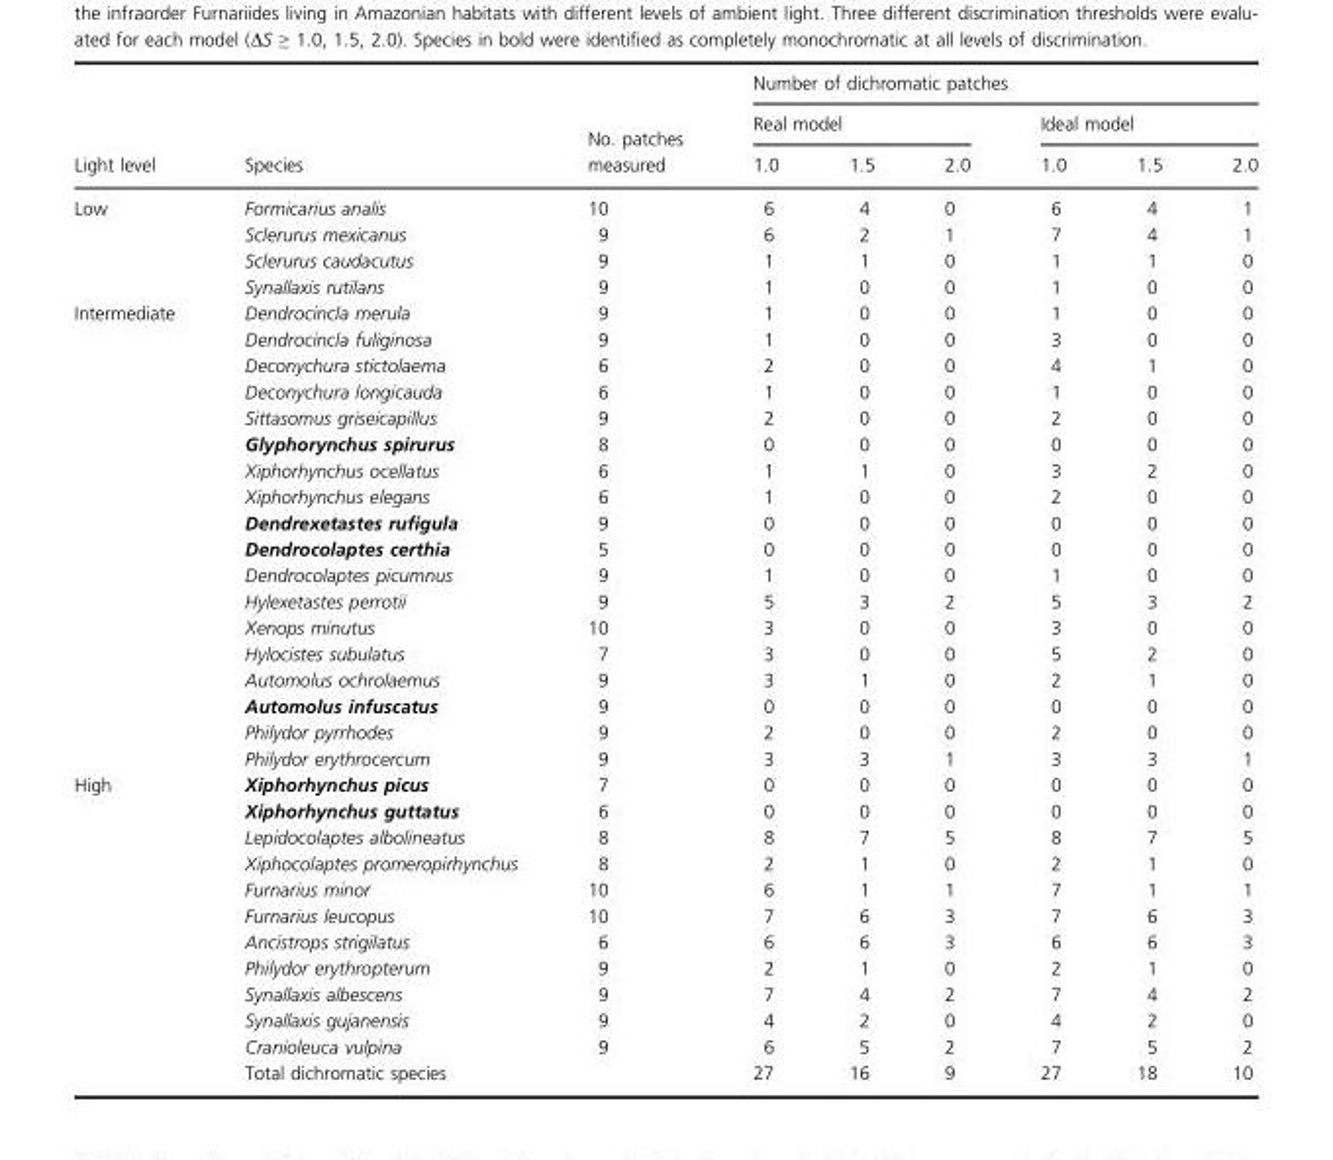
<table><thead><tr><td rowspan="3">Light level</td><td rowspan="3">Species</td><td rowspan="3">No. patches measured</td><td colspan="6">Number of dichromatic patches</td></tr><tr><td colspan="3">Real model</td><td colspan="3">Ideal model</td></tr><tr><td>1.0</td><td>1.5</td><td>2.0</td><td>1.0</td><td>1.5</td><td>2.0</td></tr></thead><tbody><tr><td rowspan="4">Low</td><td>Formicarius analis</td><td>10</td><td>6</td><td>4</td><td>0</td><td>6</td><td>4</td><td>1</td></tr><tr><td>Sclerurus mexicanus</td><td>9</td><td>6</td><td>2</td><td>1</td><td>7</td><td>4</td><td>1</td></tr><tr><td>Sclerurus caudacutus</td><td>9</td><td>1</td><td>1</td><td>0</td><td>1</td><td>1</td><td>0</td></tr><tr><td>Synallaxis rutilans</td><td>9</td><td>1</td><td>0</td><td>0</td><td>1</td><td>0</td><td>0</td></tr><tr><td rowspan="18">Intermediate</td><td>Dendrocincla merula</td><td>9</td><td>1</td><td>0</td><td>0</td><td>1</td><td>0</td><td>0</td></tr><tr><td>Dendrocincla fuliginosa</td><td>9</td><td>1</td><td>0</td><td>0</td><td>3</td><td>0</td><td>0</td></tr><tr><td>Deconychura stictolaema</td><td>6</td><td>2</td><td>0</td><td>0</td><td>4</td><td>1</td><td>0</td></tr><tr><td>Deconychura longicauda</td><td>6</td><td>1</td><td>0</td><td>0</td><td>1</td><td>0</td><td>0</td></tr><tr><td>Sittasomus griseicapillus</td><td>9</td><td>2</td><td>0</td><td>0</td><td>2</td><td>0</td><td>0</td></tr><tr><td>Glyphorynchus spirurus</td><td>8</td><td>0</td><td>0</td><td>0</td><td>0</td><td>0</td><td>0</td></tr><tr><td>Xiphorhynchus ocellatus</td><td>6</td><td>1</td><td>1</td><td>0</td><td>3</td><td>2</td><td>0</td></tr><tr><td>Xiphorhynchus elegans</td><td>6</td><td>1</td><td>0</td><td>0</td><td>2</td><td>0</td><td>0</td></tr><tr><td>Dendrexetastes rufigula</td><td>9</td><td>0</td><td>0</td><td>0</td><td>0</td><td>0</td><td>0</td></tr><tr><td>Dendrocolaptes certhia</td><td>5</td><td>0</td><td>0</td><td>0</td><td>0</td><td>0</td><td>0</td></tr><tr><td>Dendrocolaptes picumnus</td><td>9</td><td>1</td><td>0</td><td>0</td><td>1</td><td>0</td><td>0</td></tr><tr><td>Hylexetastes perrotii</td><td>9</td><td>5</td><td>3</td><td>2</td><td>5</td><td>3</td><td>2</td></tr><tr><td>Xenops minutus</td><td>10</td><td>3</td><td>0</td><td>0</td><td>3</td><td>0</td><td>0</td></tr><tr><td>Hylocistes subulatus</td><td>7</td><td>3</td><td>0</td><td>0</td><td>5</td><td>2</td><td>0</td></tr><tr><td>Automolus ochrolaemus</td><td>9</td><td>3</td><td>1</td><td>0</td><td>2</td><td>1</td><td>0</td></tr><tr><td>Automolus infuscatus</td><td>9</td><td>0</td><td>0</td><td>0</td><td>0</td><td>0</td><td>0</td></tr><tr><td>Philydor pyrrhodes</td><td>9</td><td>2</td><td>0</td><td>0</td><td>2</td><td>0</td><td>0</td></tr><tr><td>Philydor erythrocercum</td><td>9</td><td>3</td><td>3</td><td>1</td><td>3</td><td>3</td><td>1</td></tr><tr><td rowspan="12">High</td><td>Xiphorhynchus picus</td><td>7</td><td>0</td><td>0</td><td>0</td><td>0</td><td>0</td><td>0</td></tr><tr><td>Xiphorhynchus guttatus</td><td>6</td><td>0</td><td>0</td><td>0</td><td>0</td><td>0</td><td>0</td></tr><tr><td>Lepidocolaptes albolineatus</td><td>8</td><td>8</td><td>7</td><td>5</td><td>8</td><td>7</td><td>5</td></tr><tr><td>Xiphocolaptes promeropirhynchus</td><td>8</td><td>2</td><td>1</td><td>0</td><td>2</td><td>1</td><td>0</td></tr><tr><td>Furnarius minor</td><td>10</td><td>6</td><td>1</td><td>1</td><td>7</td><td>1</td><td>1</td></tr><tr><td>Furnarius leucopus</td><td>10</td><td>7</td><td>6</td><td>3</td><td>7</td><td>6</td><td>3</td></tr><tr><td>Ancistrops strigilatus</td><td>6</td><td>6</td><td>6</td><td>3</td><td>6</td><td>6</td><td>3</td></tr><tr><td>Philydor erythropterum</td><td>9</td><td>2</td><td>1</td><td>0</td><td>2</td><td>1</td><td>0</td></tr><tr><td>Synallaxis albescens</td><td>9</td><td>7</td><td>4</td><td>2</td><td>7</td><td>4</td><td>2</td></tr><tr><td>Synallaxis gujanensis</td><td>9</td><td>4</td><td>2</td><td>0</td><td>4</td><td>2</td><td>0</td></tr><tr><td>Cranioleuca vulpina</td><td>9</td><td>6</td><td>5</td><td>2</td><td>7</td><td>5</td><td>2</td></tr><tr><td>Total dichromatic species</td><td></td><td>27</td><td>16</td><td>9</td><td>27</td><td>18</td><td>10</td></tr></tbody></table>